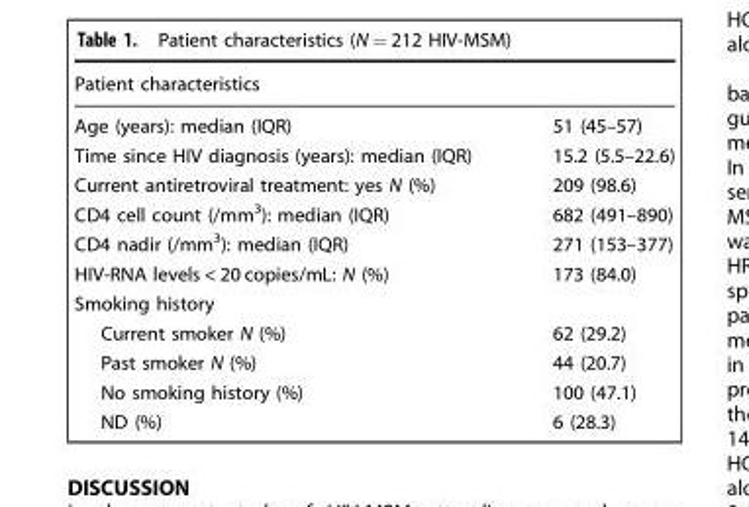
<table><thead><tr><td colspan="2">Patient characteristics</td></tr><tr><td>Age (years): median (IQR)</td><td>51 (45–57)</td></tr></thead><tbody><tr><td>Time since HIV diagnosis (years): median (IQR)</td><td>15.2 (5.5–22.6)</td></tr><tr><td>Current antiretroviral treatment: yes N (%)</td><td>209 (98.6)</td></tr><tr><td>CD4 cell count (/mm<sup>3</sup>): median (IQR)</td><td>682 (491–890)</td></tr><tr><td>CD4 nadir (/mm<sup>3</sup>): median (IQR)</td><td>271 (153–377)</td></tr><tr><td>HIV-RNA levels &lt; 20 copies/mL: N (%)</td><td>173 (84.0)</td></tr><tr><td colspan="2">Smoking history</td></tr><tr><td>Current smoker N (%)</td><td>62 (29.2)</td></tr><tr><td>Past smoker N (%)</td><td>44 (20.7)</td></tr><tr><td>No smoking history (%)</td><td>100 (47.1)</td></tr><tr><td>ND (%)</td><td>6 (28.3)</td></tr></tbody></table>